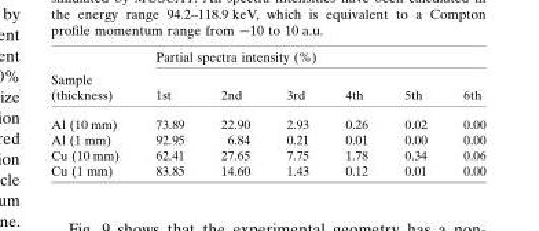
<table><thead><tr><td rowspan="2">Sample (thickness)</td><td colspan="6">Partial spectra intensity (%)</td></tr><tr><td>1st</td><td>2nd</td><td>3rd</td><td>4th</td><td>5th</td><td>6th</td></tr></thead><tbody><tr><td>Al (10 mm)</td><td>73.89</td><td>22.90</td><td>2.93</td><td>0.26</td><td>0.02</td><td>0.00</td></tr><tr><td>Al (1 mm)</td><td>92.95</td><td>6.84</td><td>0.21</td><td>0.01</td><td>0.00</td><td>0.00</td></tr><tr><td>Cu (10 mm)</td><td>62.41</td><td>27.65</td><td>7.75</td><td>1.78</td><td>0.34</td><td>0.06</td></tr><tr><td>Cu (1 mm)</td><td>83.85</td><td>14.60</td><td>1.43</td><td>0.12</td><td>0.01</td><td>0.00</td></tr></tbody></table>